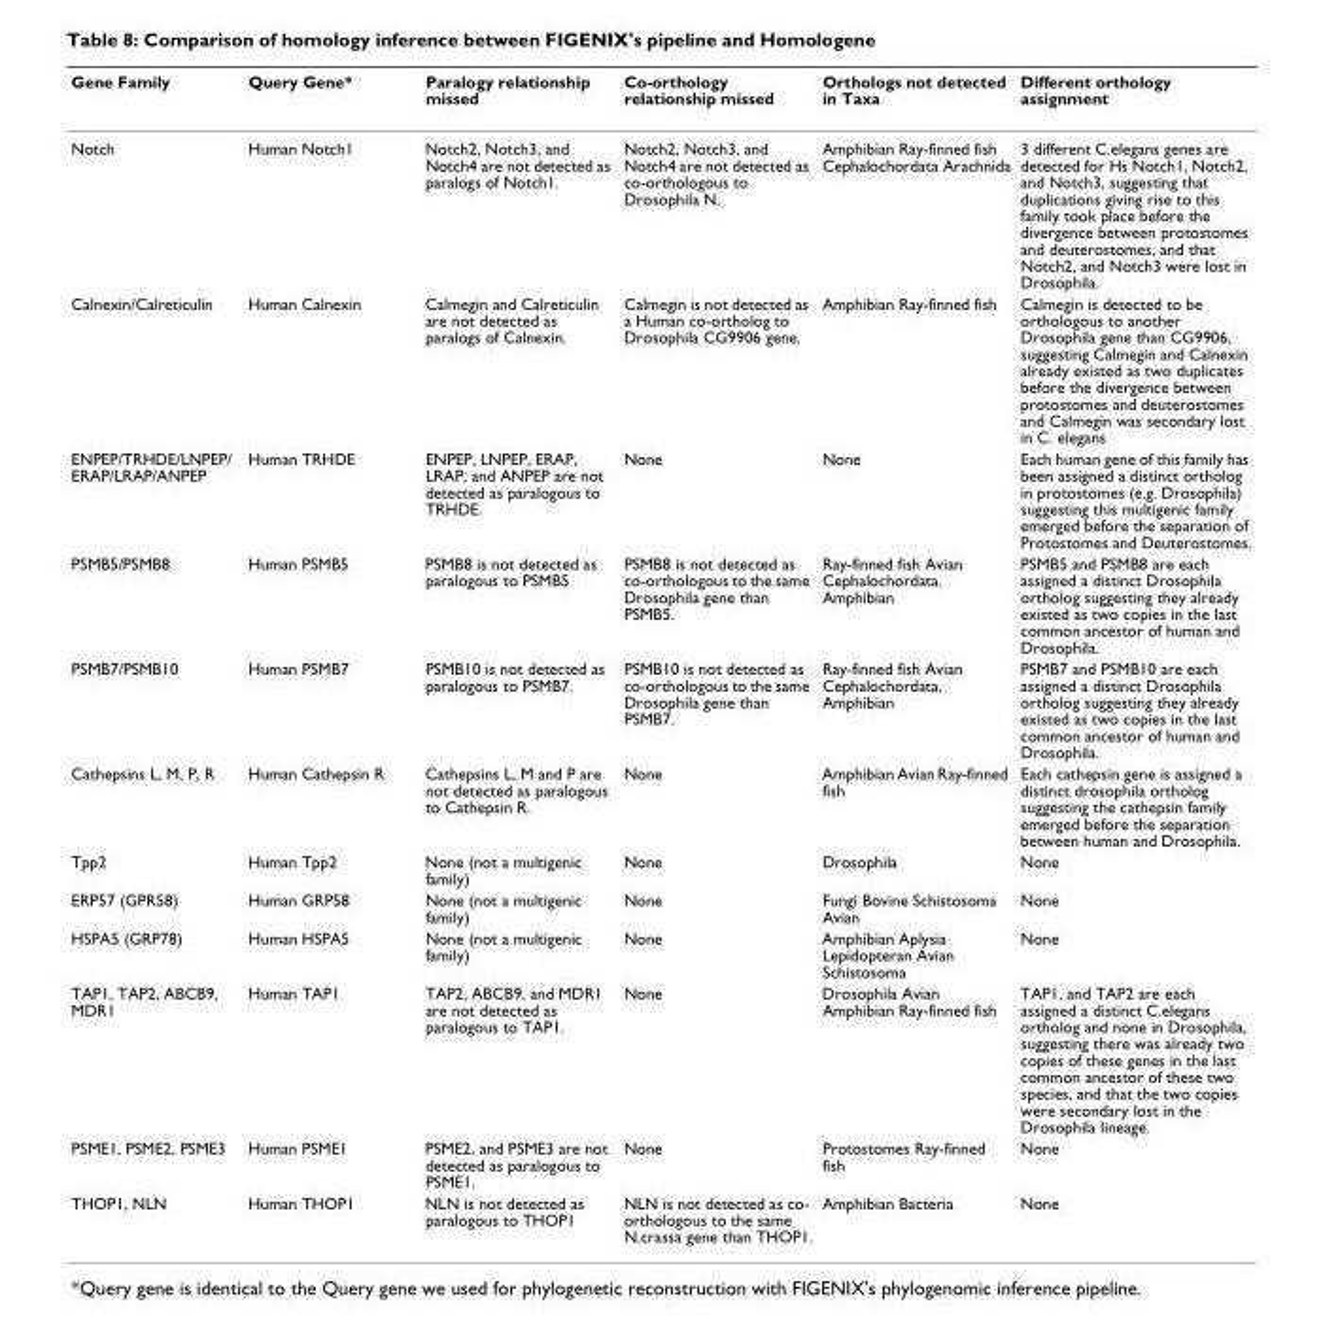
<table><thead><tr><td>Gene Family</td><td>Query Gene*</td><td>Paralogy relationship missed</td><td>Co-orthology relationship missed</td><td>Orthologs not detected in Taxa</td><td>Different orthology assignment</td></tr></thead><tbody><tr><td>Notch</td><td>Human Notch1</td><td>Notch2, Notch3, and Notch4 are not detected as paralogs of Notch1.</td><td>Notch2, Notch3, and Notch4 are not detected as co-orthologous to Drosophila N.</td><td>Amphibian Ray-finned fish Cephalochordata Arachnida</td><td>3 different C.elegans genes are detected for Hs Notch1, Notch2, and Notch3, suggesting that duplications giving rise to this family took place before the divergence between protostomes and deuterostomes, and that Notch2, and Notch3 were lost in Drosophila.</td></tr><tr><td>Calnexin/Calreticulin</td><td>Human Calnexin</td><td>Calmegin and Calreticulin are not detected as paralogs of Calnexin.</td><td>Calmegin is not detected as a Human co-ortholog to Drosophila CG9906 gene.</td><td>Amphibian Ray-finned fish</td><td>Calmegin is detected to be orthologous to another Drosophila gene than CG9906, suggesting Calmegin and Calnexin already existed as two duplicates before the divergence between protostomes and deuterostomes and Calmegin was secondary lost in C. elegans</td></tr><tr><td>ENPEP/TRHDE/LNPEP/ ERAP/LRAP/ANPEP</td><td>Human TRHDE</td><td>ENPEP, LNPEP, ERAP, LRAP, and ANPEP are not detected as paralogous to TRHDE.</td><td>None</td><td>None</td><td>Each human gene of this family has been assigned a distinct ortholog in protostomes (e.g. Drosophila) suggesting this multigenic family emerged before the separation of Protostomes and Deuterostomes.</td></tr><tr><td>PSMB5/PSMB8</td><td>Human PSMB5</td><td>PSMB8 is not detected as paralogous to PSMB5</td><td>PSMB8 is not detected as co-orthologous to the same Drosophila gene than PSMB5.</td><td>Ray-finned fish Avian Cephalochordata. Amphibian</td><td>PSMB5 and PSMB8 are each assigned a distinct Drosophila ortholog suggesting they already existed as two copies in the last common ancestor of human and Drosophila.</td></tr><tr><td>PSMB7/PSMB10</td><td>Human PSMB7</td><td>PSMB10 is not detected as paralogous to PSMB7.</td><td>PSMB10 is not detected as co-orthologous to the same Drosophila gene than PSMB7.</td><td>Ray-finned fish Avian Cephalochordata. Amphibian</td><td>PSMB7 and PSMB10 are each assigned a distinct Drosophila ortholog suggesting they already existed as two copies in the last common ancestor of human and Drosophila.</td></tr><tr><td>Cathepsins L, M, P, R</td><td>Human Cathepsin R</td><td>Cathepsins L, M and P are not detected as paralogous to Cathepsin R.</td><td>None</td><td>Amphibian Avian Ray-finned fish</td><td>Each cathepsin gene is assigned a distinct drosophila ortholog suggesting the cathepsin family emerged before the separation between human and Drosophila.</td></tr><tr><td>Tpp2</td><td>Human Tpp2</td><td>None (not a multigenic family)</td><td>None</td><td>Drosophila</td><td>None</td></tr><tr><td>ERP57 (GPR58)</td><td>Human GRP58</td><td>None (not a multigenic family)</td><td>None</td><td>Fungi Bovine Schistosoma Avian</td><td>None</td></tr><tr><td>HSPA5 (GRP78)</td><td>Human HSPA5</td><td>None (not a multigenic family)</td><td>None</td><td>Amphibian Aplysia Lepidopteran Avian Schistosoma</td><td>None</td></tr><tr><td>TAP1, TAP2, ABCB9, MDR1</td><td>Human TAP1</td><td>TAP2, ABCB9, and MDR1 are not detected as paralogous to TAP1.</td><td>None</td><td>Drosophila Avian Amphibian Ray-finned fish</td><td>TAP1, and TAP2 are each assigned a distinct C.elegans ortholog and none in Drosophila, suggesting there was already two copies of these genes in the last common ancestor of these two species, and that the two copies were secondary lost in the Drosophila lineage.</td></tr><tr><td>PSME1, PSME2, PSME3</td><td>Human PSME1</td><td>PSME2, and PSME3 are not detected as paralogous to PSME1.</td><td>None</td><td>Protostomes Ray-finned fish</td><td>None</td></tr><tr><td>THOP1, NLN</td><td>Human THOP1</td><td>NLN is not detected as paralogous to THOP1</td><td>NLN is not detected as co- orthologous to the same N.crassa gene than THOP1.</td><td>Amphibian Bacteria</td><td>None</td></tr></tbody></table>